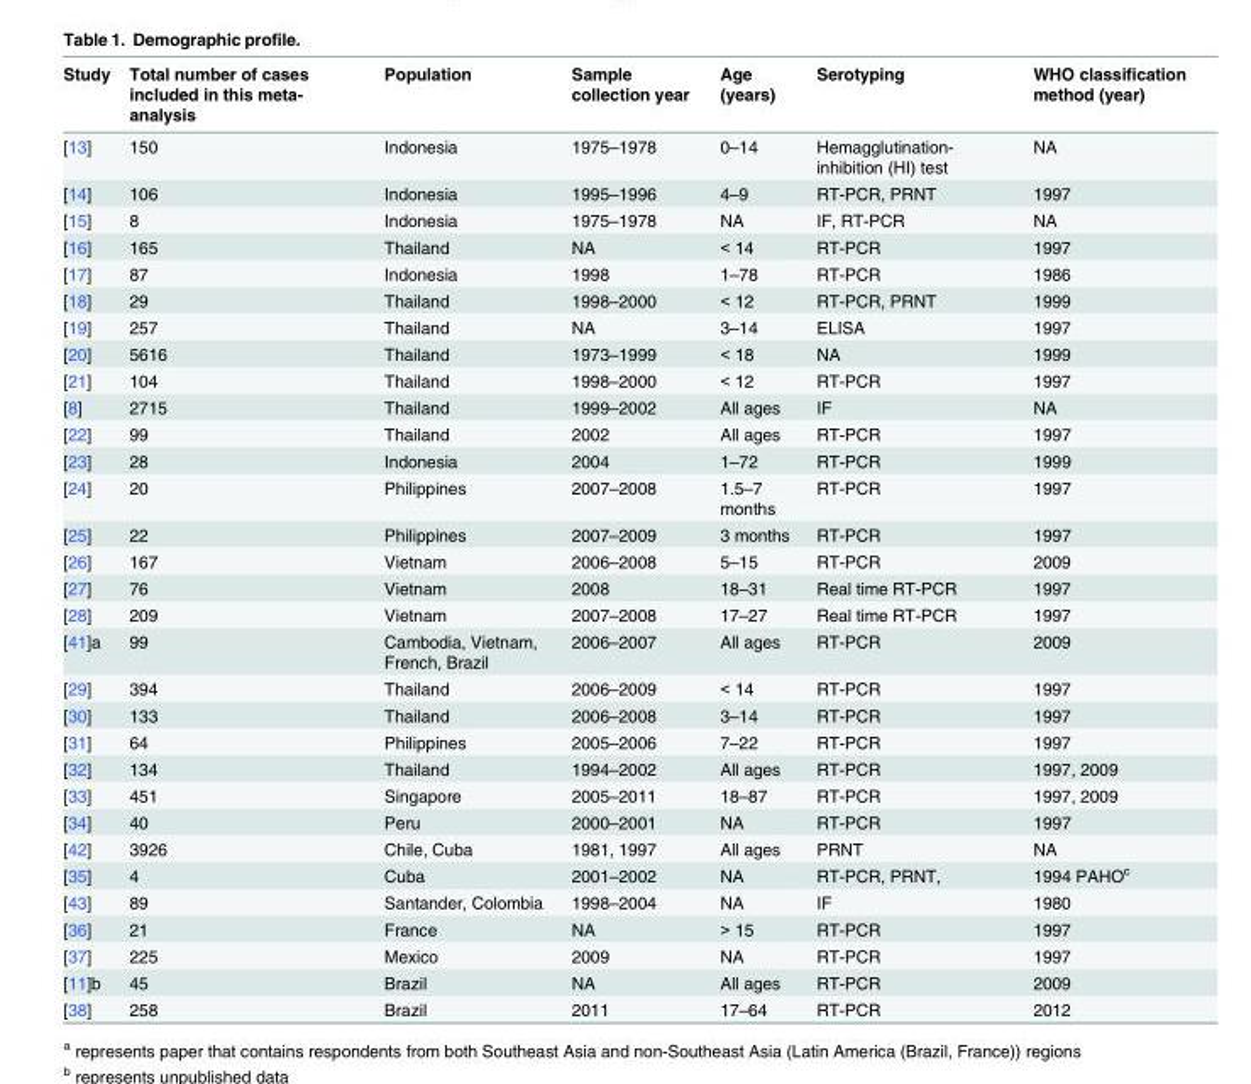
<table><thead><tr><td>Study</td><td>Total number of cases included in this meta- analysis</td><td>Population</td><td>Sample collection year</td><td>Age (years)</td><td>Serotyping</td><td>WHO classification method (year)</td></tr></thead><tbody><tr><td>[13]</td><td>150</td><td>Indonesia</td><td>1975–1978</td><td>0–14</td><td>Hemagglutination- inhibition (HI) test</td><td>NA</td></tr><tr><td>[14]</td><td>106</td><td>Indonesia</td><td>1995–1996</td><td>4–9</td><td>RT-PCR, PRNT</td><td>1997</td></tr><tr><td>[15]</td><td>8</td><td>Indonesia</td><td>1975–1978</td><td>NA</td><td>IF, RT-PCR</td><td>NA</td></tr><tr><td>[16]</td><td>165</td><td>Thailand</td><td>NA</td><td>&lt; 14</td><td>RT-PCR</td><td>1997</td></tr><tr><td>[17]</td><td>87</td><td>Indonesia</td><td>1998</td><td>1–78</td><td>RT-PCR</td><td>1986</td></tr><tr><td>[18]</td><td>29</td><td>Thailand</td><td>1998–2000</td><td>&lt; 12</td><td>RT-PCR, PRNT</td><td>1999</td></tr><tr><td>[19]</td><td>257</td><td>Thailand</td><td>NA</td><td>3–14</td><td>ELISA</td><td>1997</td></tr><tr><td>[20]</td><td>5616</td><td>Thailand</td><td>1973–1999</td><td>&lt; 18</td><td>NA</td><td>1999</td></tr><tr><td>[21]</td><td>104</td><td>Thailand</td><td>1998–2000</td><td>&lt; 12</td><td>RT-PCR</td><td>1997</td></tr><tr><td>[8]</td><td>2715</td><td>Thailand</td><td>1999–2002</td><td>All ages</td><td>IF</td><td>NA</td></tr><tr><td>[22]</td><td>99</td><td>Thailand</td><td>2002</td><td>All ages</td><td>RT-PCR</td><td>1997</td></tr><tr><td>[23]</td><td>28</td><td>Indonesia</td><td>2004</td><td>1–72</td><td>RT-PCR</td><td>1999</td></tr><tr><td>[24]</td><td>20</td><td>Philippines</td><td>2007–2008</td><td>1.5–7 months</td><td>RT-PCR</td><td>1997</td></tr><tr><td>[25]</td><td>22</td><td>Philippines</td><td>2007–2009</td><td>3 months</td><td>RT-PCR</td><td>1997</td></tr><tr><td>[26]</td><td>167</td><td>Vietnam</td><td>2006–2008</td><td>5–15</td><td>RT-PCR</td><td>2009</td></tr><tr><td>[27]</td><td>76</td><td>Vietnam</td><td>2008</td><td>18–31</td><td>Real time RT-PCR</td><td>1997</td></tr><tr><td>[28]</td><td>209</td><td>Vietnam</td><td>2007–2008</td><td>17–27</td><td>Real time RT-PCR</td><td>1997</td></tr><tr><td>[41]<sup>a</sup></td><td>99</td><td>Cambodia, Vietnam, French, Brazil</td><td>2006–2007</td><td>All ages</td><td>RT-PCR</td><td>2009</td></tr><tr><td>[29]</td><td>394</td><td>Thailand</td><td>2006–2009</td><td>&lt; 14</td><td>RT-PCR</td><td>1997</td></tr><tr><td>[30]</td><td>133</td><td>Thailand</td><td>2006–2008</td><td>3–14</td><td>RT-PCR</td><td>1997</td></tr><tr><td>[31]</td><td>64</td><td>Philippines</td><td>2005–2006</td><td>7–22</td><td>RT-PCR</td><td>1997</td></tr><tr><td>[32]</td><td>134</td><td>Thailand</td><td>1994–2002</td><td>All ages</td><td>RT-PCR</td><td>1997, 2009</td></tr><tr><td>[33]</td><td>451</td><td>Singapore</td><td>2005–2011</td><td>18–87</td><td>RT-PCR</td><td>1997, 2009</td></tr><tr><td>[34]</td><td>40</td><td>Peru</td><td>2000–2001</td><td>NA</td><td>RT-PCR</td><td>1997</td></tr><tr><td>[42]</td><td>3926</td><td>Chile, Cuba</td><td>1981, 1997</td><td>All ages</td><td>PRNT</td><td>NA</td></tr><tr><td>[35]</td><td>4</td><td>Cuba</td><td>2001–2002</td><td>NA</td><td>RT-PCR, PRNT,</td><td>1994 PAHO<sup>c</sup></td></tr><tr><td>[43]</td><td>89</td><td>Santander, Colombia</td><td>1998–2004</td><td>NA</td><td>IF</td><td>1980</td></tr><tr><td>[36]</td><td>21</td><td>France</td><td>NA</td><td>&gt; 15</td><td>RT-PCR</td><td>1997</td></tr><tr><td>[37]</td><td>225</td><td>Mexico</td><td>2009</td><td>NA</td><td>RT-PCR</td><td>1997</td></tr><tr><td>[11]<sup>b</sup></td><td>45</td><td>Brazil</td><td>NA</td><td>All ages</td><td>RT-PCR</td><td>2009</td></tr><tr><td>[38]</td><td>258</td><td>Brazil</td><td>2011</td><td>17–64</td><td>RT-PCR</td><td>2012</td></tr></tbody></table>